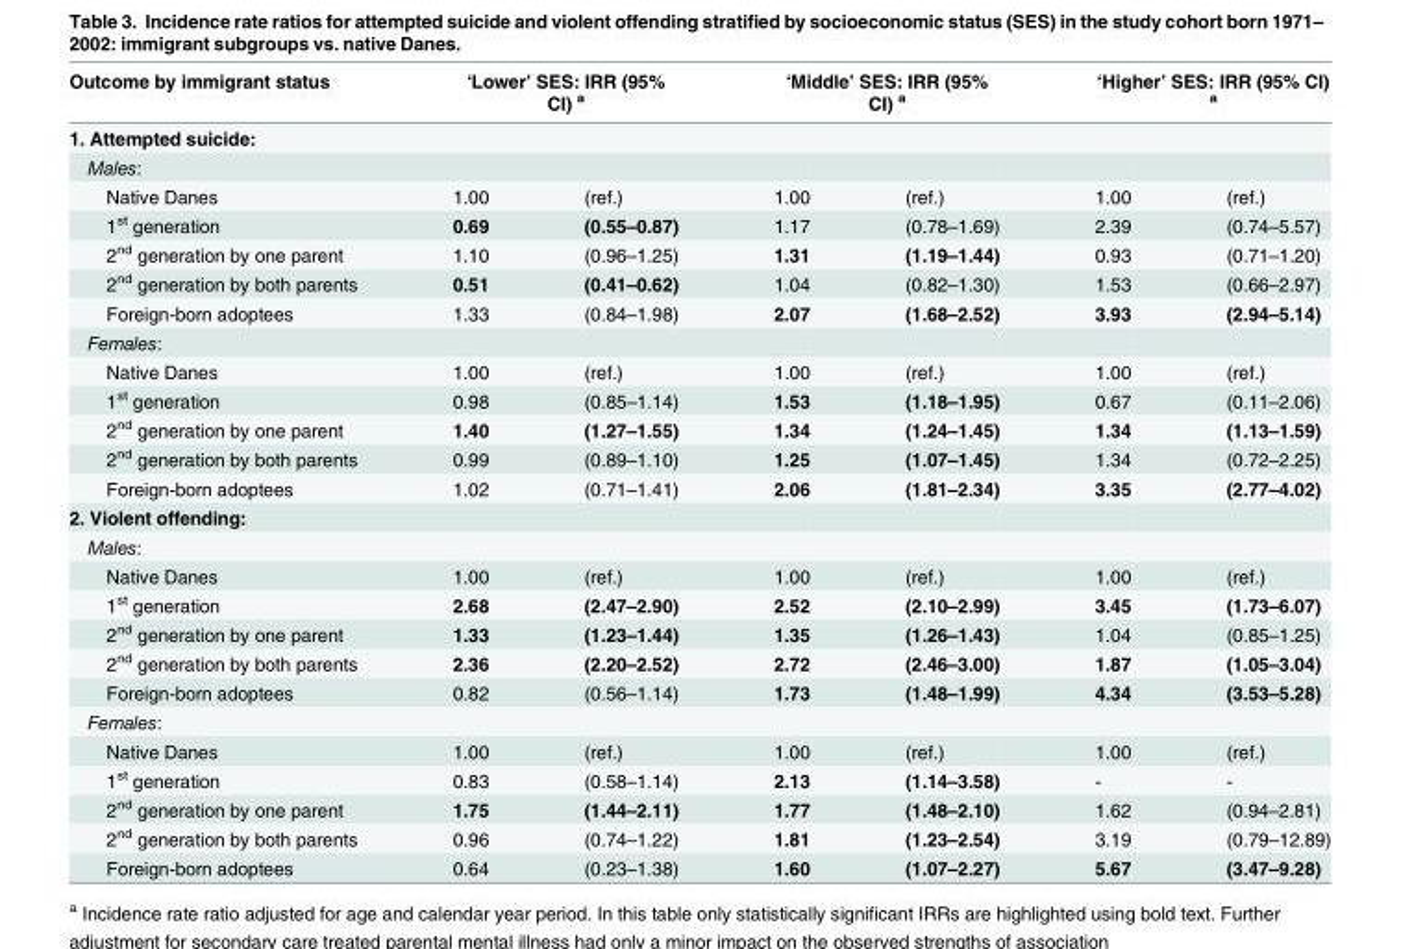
<table><thead><tr><td rowspan="2">Outcome by immigrant status 1. Attempted suicide:</td><td colspan="2">‘Lower’ SES: IRR (95% CI) <sup>a</sup></td><td colspan="2">‘Middle’ SES: IRR (95% CI) <sup>a</sup></td><td colspan="2">‘Higher’ SES: IRR (95% CI) <sup>a</sup></td></tr><tr><td></td><td></td><td></td><td></td><td></td><td></td></tr></thead><tbody><tr><td colspan="7">Males:</td></tr><tr><td>Native Danes</td><td>1.00</td><td>(ref.)</td><td>1.00</td><td>(ref.)</td><td>1.00</td><td>(ref.)</td></tr><tr><td>1<sup>st</sup> generation</td><td>0.69</td><td>(0.55–0.87)</td><td>1.17</td><td>(0.78–1.69)</td><td>2.39</td><td>(0.74–5.57)</td></tr><tr><td>2<sup>nd</sup> generation by one parent</td><td>1.10</td><td>(0.96–1.25)</td><td>1.31</td><td>(1.19–1.44)</td><td>0.93</td><td>(0.71–1.20)</td></tr><tr><td>2<sup>nd</sup> generation by both parents</td><td>0.51</td><td>(0.41–0.62)</td><td>1.04</td><td>(0.82–1.30)</td><td>1.53</td><td>(0.66–2.97)</td></tr><tr><td>Foreign-born adoptees</td><td>1.33</td><td>(0.84–1.98)</td><td>2.07</td><td>(1.68–2.52)</td><td>3.93</td><td>(2.94–5.14)</td></tr><tr><td colspan="7">Females:</td></tr><tr><td>Native Danes</td><td>1.00</td><td>(ref.)</td><td>1.00</td><td>(ref.)</td><td>1.00</td><td>(ref.)</td></tr><tr><td>1<sup>st</sup> generation</td><td>0.98</td><td>(0.85–1.14)</td><td>1.53</td><td>(1.18–1.95)</td><td>0.67</td><td>(0.11–2.06)</td></tr><tr><td>2<sup>nd</sup> generation by one parent</td><td>1.40</td><td>(1.27–1.55)</td><td>1.34</td><td>(1.24–1.45)</td><td>1.34</td><td>(1.13–1.59)</td></tr><tr><td>2<sup>nd</sup> generation by both parents</td><td>0.99</td><td>(0.89–1.10)</td><td>1.25</td><td>(1.07–1.45)</td><td>1.34</td><td>(0.72–2.25)</td></tr><tr><td>Foreign-born adoptees</td><td>1.02</td><td>(0.71–1.41)</td><td>2.06</td><td>(1.81–2.34)</td><td>3.35</td><td>(2.77–4.02)</td></tr><tr><td colspan="7">2. Violent offending:</td></tr><tr><td colspan="7">Males:</td></tr><tr><td>Native Danes</td><td>1.00</td><td>(ref.)</td><td>1.00</td><td>(ref.)</td><td>1.00</td><td>(ref.)</td></tr><tr><td>1<sup>st</sup> generation</td><td>2.68</td><td>(2.47–2.90)</td><td>2.52</td><td>(2.10–2.99)</td><td>3.45</td><td>(1.73–6.07)</td></tr><tr><td>2<sup>nd</sup> generation by one parent</td><td>1.33</td><td>(1.23–1.44)</td><td>1.35</td><td>(1.26–1.43)</td><td>1.04</td><td>(0.85–1.25)</td></tr><tr><td>2<sup>nd</sup> generation by both parents</td><td>2.36</td><td>(2.20–2.52)</td><td>2.72</td><td>(2.46–3.00)</td><td>1.87</td><td>(1.05–3.04)</td></tr><tr><td>Foreign-born adoptees</td><td>0.82</td><td>(0.56–1.14)</td><td>1.73</td><td>(1.48–1.99)</td><td>4.34</td><td>(3.53–5.28)</td></tr><tr><td colspan="7">Females:</td></tr><tr><td>Native Danes</td><td>1.00</td><td>(ref.)</td><td>1.00</td><td>(ref.)</td><td>1.00</td><td>(ref.)</td></tr><tr><td>1<sup>st</sup> generation</td><td>0.83</td><td>(0.58–1.14)</td><td>2.13</td><td>(1.14–3.58)</td><td>-</td><td>-</td></tr><tr><td>2<sup>nd</sup> generation by one parent</td><td>1.75</td><td>(1.44–2.11)</td><td>1.77</td><td>(1.48–2.10)</td><td>1.62</td><td>(0.94–2.81)</td></tr><tr><td>2<sup>nd</sup> generation by both parents</td><td>0.96</td><td>(0.74–1.22)</td><td>1.81</td><td>(1.23–2.54)</td><td>3.19</td><td>(0.79–12.89)</td></tr><tr><td>Foreign-born adoptees</td><td>0.64</td><td>(0.23–1.38)</td><td>1.60</td><td>(1.07–2.27)</td><td>5.67</td><td>(3.47–9.28)</td></tr></tbody></table>